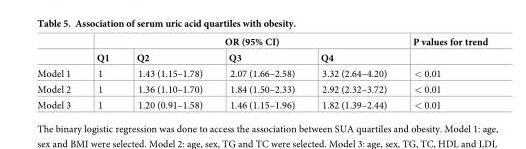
<table><thead><tr><td rowspan="2"></td><td colspan="4">OR (95% CI)</td><td rowspan="2">P values for trend</td></tr><tr><td>Q1</td><td>Q2</td><td>Q3</td><td>Q4</td></tr></thead><tbody><tr><td>Model 1</td><td>1</td><td>1.43 (1.15–1.78)</td><td>2.07 (1.66–2.58)</td><td>3.32 (2.64–4.20)</td><td>&lt; 0.01</td></tr><tr><td>Model 2</td><td>1</td><td>1.36 (1.10–1.70)</td><td>1.84 (1.50–2.33)</td><td>2.92 (2.32–3.72)</td><td>&lt; 0.01</td></tr><tr><td>Model 3</td><td>1</td><td>1.20 (0.91–1.58)</td><td>1.46 (1.15–1.96)</td><td>1.82 (1.39–2.44)</td><td>&lt; 0.01</td></tr></tbody></table>